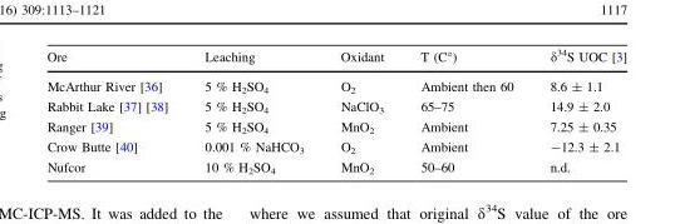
<table><thead><tr><td>Ore</td><td>Leaching</td><td>Oxidant</td><td>T (C°)</td><td>δ<sup>34</sup>S UOC [3]</td></tr></thead><tbody><tr><td>McArthur River [36]</td><td>5 % H<sub>2</sub>SO<sub>4</sub></td><td>O<sub>2</sub></td><td>Ambient then 60</td><td>8.6 ± 1.1</td></tr><tr><td>Rabbit Lake [37] [38]</td><td>5 % H<sub>2</sub>SO<sub>4</sub></td><td>NaClO<sub>3</sub></td><td>65–75</td><td>14.9 ± 2.0</td></tr><tr><td>Ranger [39]</td><td>5 % H<sub>2</sub>SO<sub>4</sub></td><td>MnO<sub>2</sub></td><td>Ambient</td><td>7.25 ± 0.35</td></tr><tr><td>Crow Butte [40]</td><td>0.001 % NaHCO<sub>3</sub></td><td>O<sub>2</sub></td><td>Ambient</td><td>-12.3 ± 2.1</td></tr><tr><td>Nufcor</td><td>10 % H<sub>2</sub>SO<sub>4</sub></td><td>MnO<sub>2</sub></td><td>50–60</td><td>n.d.</td></tr></tbody></table>